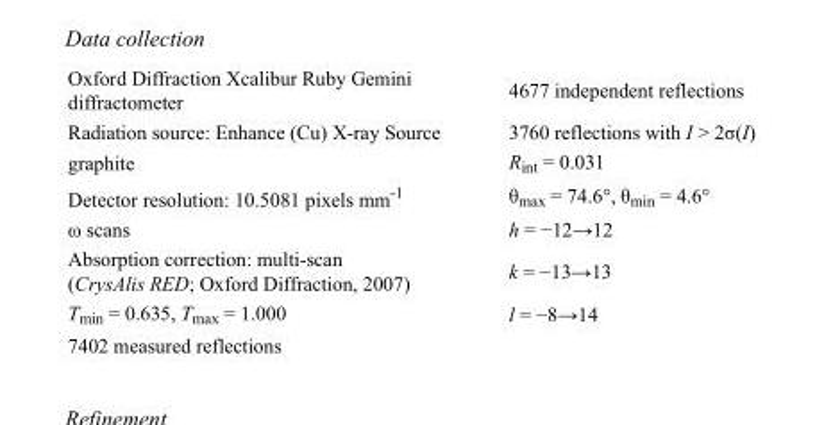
<table><tbody><tr><td>Oxford Diffraction Xcalibur Ruby Gemini diffractometer</td><td>4677 independent reflections</td></tr><tr><td>Radiation source: Enhance (Cu) X-ray Source</td><td>3760 reflections with I &gt; 2σ(I)</td></tr><tr><td>graphite</td><td>R<sub>int</sub> = 0.031</td></tr><tr><td>Detector resolution: 10.5081 pixels mm<sup>-1</sup></td><td>θ<sub>max</sub> = 74.6°, θ<sub>min</sub> = 4.6°</td></tr><tr><td>ω scans</td><td>h = −12→12</td></tr><tr><td>Absorption correction: multi-scan (CrysAlis RED; Oxford Diffraction, 2007)</td><td>k = −13→13</td></tr><tr><td>T<sub>min</sub> = 0.635, T<sub>max</sub> = 1.000</td><td>l = −8→14</td></tr><tr><td>7402 measured reflections</td><td></td></tr></tbody></table>